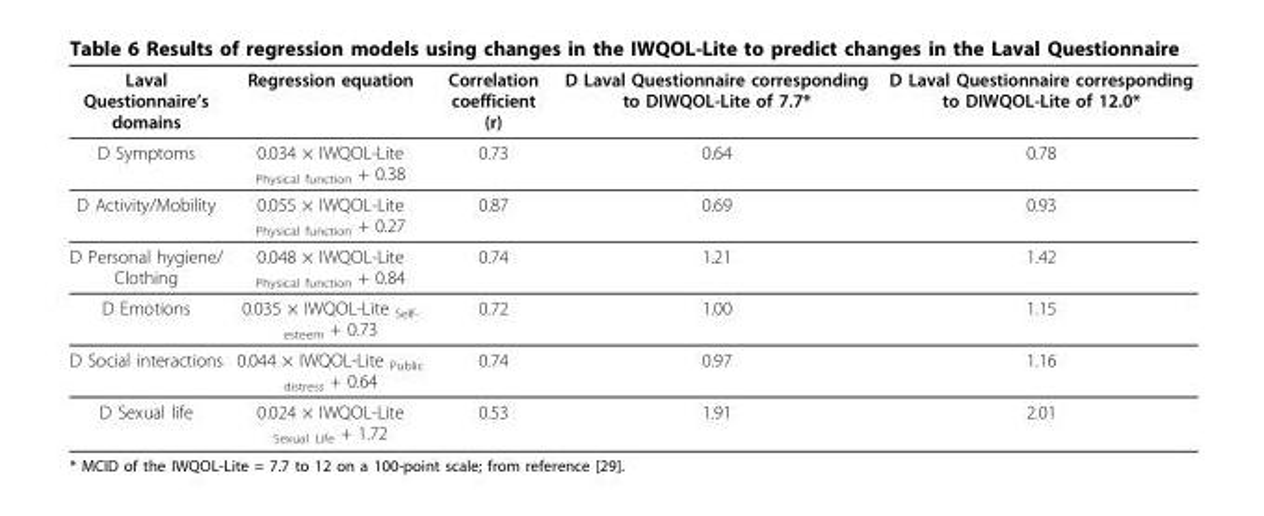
<table><thead><tr><td>Laval Questionnaire’s domains</td><td>Regression equation</td><td>Correlation coefficient (r)</td><td>D Laval Questionnaire corresponding to DIWQOL-Lite of 7.7*</td><td>D Laval Questionnaire corresponding to DIWQOL-Lite of 12.0*</td></tr></thead><tbody><tr><td>D Symptoms</td><td>0.034 × IWQOL-Lite <sub>Physical function</sub> + 0.38</td><td>0.73</td><td>0.64</td><td>0.78</td></tr><tr><td>D Activity/Mobility</td><td>0.055 × IWQOL-Lite <sub>Physical function</sub> + 0.27</td><td>0.87</td><td>0.69</td><td>0.93</td></tr><tr><td>D Personal hygiene/ Clothing</td><td>0.048 × IWQOL-Lite <sub>Physical function</sub> + 0.84</td><td>0.74</td><td>1.21</td><td>1.42</td></tr><tr><td>D Emotions</td><td>0.035 × IWQOL-Lite <sub>Self- esteem</sub> + 0.73</td><td>0.72</td><td>1.00</td><td>1.15</td></tr><tr><td>D Social interactions</td><td>0.044 × IWQOL-Lite <sub>Public distress</sub> + 0.64</td><td>0.74</td><td>0.97</td><td>1.16</td></tr><tr><td>D Sexual life</td><td>0.024 × IWQOL-Lite <sub>Sexual Life</sub> + 1.72</td><td>0.53</td><td>1.91</td><td>2.01</td></tr></tbody></table>